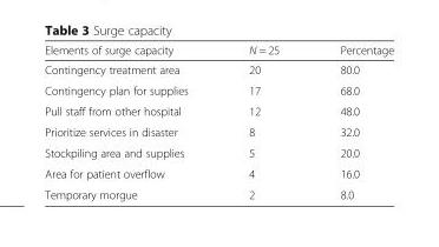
<table><thead><tr><td>Elements of surge capacity</td><td>N = 25</td><td>Percentage</td></tr></thead><tbody><tr><td>Contingency treatment area</td><td>20</td><td>80.0</td></tr><tr><td>Contingency plan for supplies</td><td>17</td><td>68.0</td></tr><tr><td>Pull staff from other hospital</td><td>12</td><td>48.0</td></tr><tr><td>Prioritize services in disaster</td><td>8</td><td>32.0</td></tr><tr><td>Stockpiling area and supplies</td><td>5</td><td>20.0</td></tr><tr><td>Area for patient overflow</td><td>4</td><td>16.0</td></tr><tr><td>Temporary morgue</td><td>2</td><td>8.0</td></tr></tbody></table>